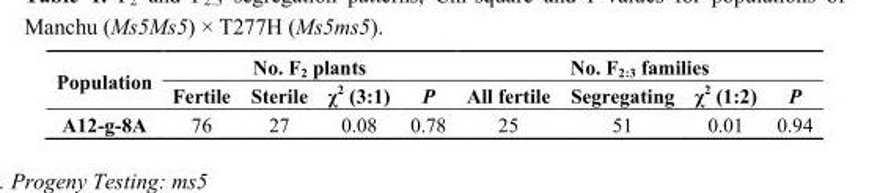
<table><thead><tr><td rowspan="2">Population</td><td colspan="4">No. F<sub>2</sub> plants</td><td colspan="4">No. F<sub>2:3</sub> families</td></tr><tr><td>Fertile</td><td>Sterile</td><td>χ<sup>2</sup> (3:1)</td><td>P</td><td>All fertile</td><td>Segregating</td><td>χ<sup>2</sup> (1:2)</td><td>P</td></tr></thead><tbody><tr><td>A12-g-8A</td><td>76</td><td>27</td><td>0.08</td><td>0.78</td><td>25</td><td>51</td><td>0.01</td><td>0.94</td></tr></tbody></table>